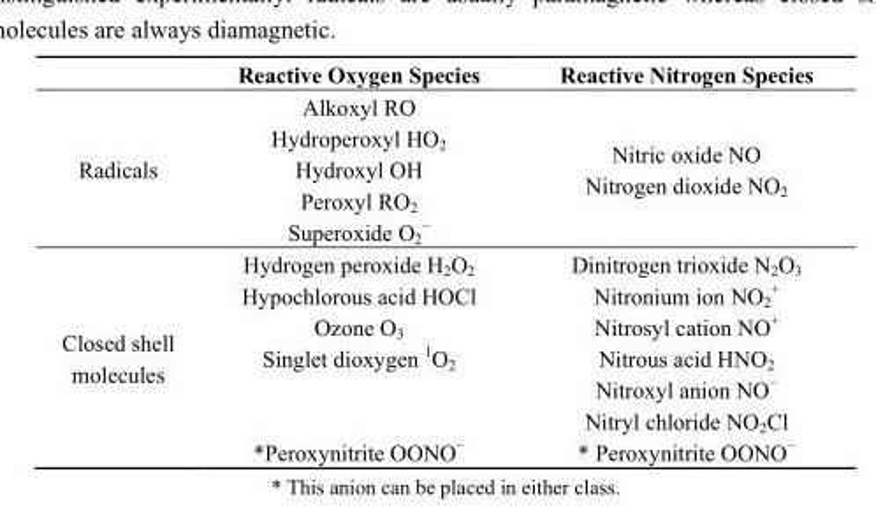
<table><thead><tr><td></td><td>Reactive Oxygen Species</td><td>Reactive Nitrogen Species</td></tr></thead><tbody><tr><td>Radicals</td><td>Alkoxyl RO Hydroperoxyl HO<sub>2</sub> Hydroxyl OH Peroxyl RO<sub>2</sub> Superoxide O<sub>2</sub> <sup>−</sup></td><td>Nitric oxide NO Nitrogen dioxide NO<sub>2</sub></td></tr><tr><td>Closed shell molecules</td><td>Hydrogen peroxide H<sub>2</sub>O<sub>2</sub> Hypochlorous acid HOCl Ozone O<sub>3</sub> Singlet dioxygen <sup>1</sup>O<sub>2</sub> *Peroxynitrite OONO<sup>−</sup></td><td>Dinitrogen trioxide N<sub>2</sub>O<sub>3</sub> Nitronium ion NO<sub>2</sub> <sup>+</sup> Nitrosyl cation NO<sup>+</sup> Nitrous acid HNO<sub>2</sub> Nitroxyl anion NO<sup>−</sup> Nitryl chloride NO<sub>2</sub>Cl * Peroxynitrite OONO<sup>−</sup></td></tr></tbody></table>